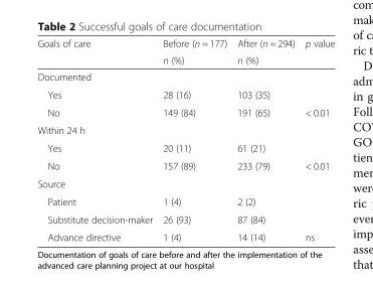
<table><thead><tr><td rowspan="2">Goals of care</td><td rowspan="2">Before (n = 177) n (%)</td><td rowspan="2">After (n = 294) n (%)</td><td rowspan="2">p value</td></tr><tr></tr></thead><tbody><tr><td colspan="4">Documented</td></tr><tr><td>Yes</td><td>28 (16)</td><td>103 (35)</td><td></td></tr><tr><td>No</td><td>149 (84)</td><td>191 (65)</td><td>&lt; 0.01</td></tr><tr><td colspan="4">Within 24 h</td></tr><tr><td>Yes</td><td>20 (11)</td><td>61 (21)</td><td></td></tr><tr><td>No</td><td>157 (89)</td><td>233 (79)</td><td>&lt; 0.01</td></tr><tr><td colspan="4">Source</td></tr><tr><td>Patient</td><td>1 (4)</td><td>2 (2)</td><td></td></tr><tr><td>Substitute decision-maker</td><td>26 (93)</td><td>87 (84)</td><td></td></tr><tr><td>Advance directive</td><td>1 (4)</td><td>14 (14)</td><td>ns</td></tr></tbody></table>